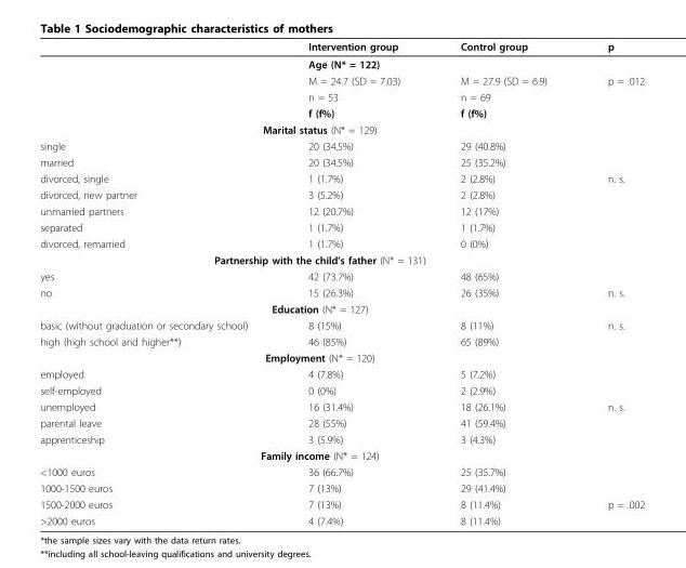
<table><thead><tr><td></td><td>Intervention group</td><td>Control group</td><td>p</td></tr></thead><tbody><tr><td></td><td>Age (N* = 122)</td><td></td><td></td></tr><tr><td></td><td>M = 24.7 (SD = 7.03)</td><td>M = 27.9 (SD = 6.9)</td><td>p = .012</td></tr><tr><td></td><td>n = 53</td><td>n = 69</td><td></td></tr><tr><td></td><td>f (f%)</td><td>f (f%)</td><td></td></tr><tr><td colspan="4">Marital status (N* = 129)</td></tr><tr><td>single</td><td>20 (34.5%)</td><td>29 (40.8%)</td><td></td></tr><tr><td>married</td><td>20 (34.5%)</td><td>25 (35.2%)</td><td></td></tr><tr><td>divorced, single</td><td>1 (1.7%)</td><td>2 (2.8%)</td><td>n. s.</td></tr><tr><td>divorced, new partner</td><td>3 (5.2%)</td><td>2 (2.8%)</td><td></td></tr><tr><td>unmarried partners</td><td>12 (20.7%)</td><td>12 (17%)</td><td></td></tr><tr><td>separated</td><td>1 (1.7%)</td><td>1 (1.7%)</td><td></td></tr><tr><td>divorced, remarried</td><td>1 (1.7%)</td><td>0 (0%)</td><td></td></tr><tr><td colspan="4">Partnership with the child’s father (N* = 131)</td></tr><tr><td>yes</td><td>42 (73.7%)</td><td>48 (65%)</td><td></td></tr><tr><td>no</td><td>15 (26.3%)</td><td>26 (35%)</td><td>n. s.</td></tr><tr><td colspan="4">Education (N* = 127)</td></tr><tr><td>basic (without graduation or secondary school)</td><td>8 (15%)</td><td>8 (11%)</td><td>n. s.</td></tr><tr><td>high (high school and higher**)</td><td>46 (85%)</td><td>65 (89%)</td><td></td></tr><tr><td colspan="4">Employment (N* = 120)</td></tr><tr><td>employed</td><td>4 (7.8%)</td><td>5 (7.2%)</td><td></td></tr><tr><td>self-employed</td><td>0 (0%)</td><td>2 (2.9%)</td><td></td></tr><tr><td>unemployed</td><td>16 (31.4%)</td><td>18 (26.1%)</td><td>n. s.</td></tr><tr><td>parental leave</td><td>28 (55%)</td><td>41 (59.4%)</td><td></td></tr><tr><td>apprenticeship</td><td>3 (5.9%)</td><td>3 (4.3%)</td><td></td></tr><tr><td colspan="4">Family income (N* = 124)</td></tr><tr><td>&lt;1000 euros</td><td>36 (66.7%)</td><td>25 (35.7%)</td><td></td></tr><tr><td>1000-1500 euros</td><td>7 (13%)</td><td>29 (41.4%)</td><td></td></tr><tr><td>1500-2000 euros</td><td>7 (13%)</td><td>8 (11.4%)</td><td>p = .002</td></tr><tr><td>&gt;2000 euros</td><td>4 (7.4%)</td><td>8 (11.4%)</td><td></td></tr></tbody></table>